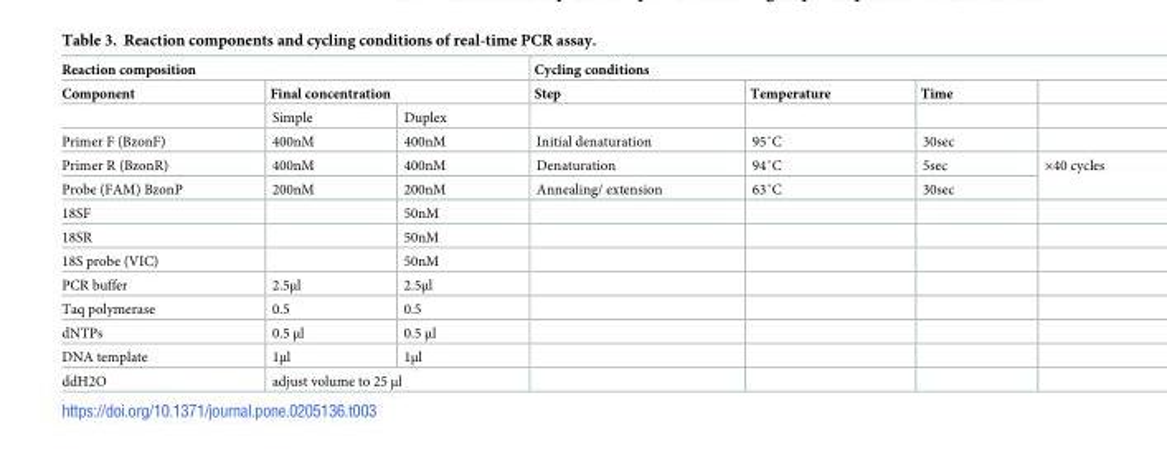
<table><thead><tr><td colspan="3">Reaction composition</td><td colspan="4">Cycling conditions</td></tr><tr><td rowspan="2">Component</td><td colspan="2">Final concentration</td><td rowspan="2">Step</td><td rowspan="2">Temperature</td><td rowspan="2">Time</td><td rowspan="2"></td></tr><tr><td>Simple</td><td>Duplex</td></tr></thead><tbody><tr><td>Primer F (BzonF)</td><td>400nM</td><td>400nM</td><td>Initial denaturation</td><td>95˚C</td><td>30sec</td><td></td></tr><tr><td>Primer R (BzonR)</td><td>400nM</td><td>400nM</td><td>Denaturation</td><td>94˚C</td><td>5sec</td><td rowspan="2">×40 cycles</td></tr><tr><td>Probe (FAM) BzonP</td><td>200nM</td><td>200nM</td><td>Annealing/ extension</td><td>63˚C</td><td>30sec</td></tr><tr><td>18SF</td><td></td><td>50nM</td><td></td><td></td><td></td><td></td></tr><tr><td>18SR</td><td></td><td>50nM</td><td></td><td></td><td></td><td></td></tr><tr><td>18S probe (VIC)</td><td></td><td>50nM</td><td></td><td></td><td></td><td></td></tr><tr><td>PCR buffer</td><td>2.5μl</td><td>2.5μl</td><td></td><td></td><td></td><td></td></tr><tr><td>Taq polymerase</td><td>0.5</td><td>0.5</td><td></td><td></td><td></td><td></td></tr><tr><td>dNTPs</td><td>0.5 μl</td><td>0.5 μl</td><td></td><td></td><td></td><td></td></tr><tr><td>DNA template</td><td>1μl</td><td>1μl</td><td></td><td></td><td></td><td></td></tr><tr><td>ddH2O</td><td colspan="2">adjust volume to 25 μl</td><td></td><td></td><td></td><td></td></tr></tbody></table>